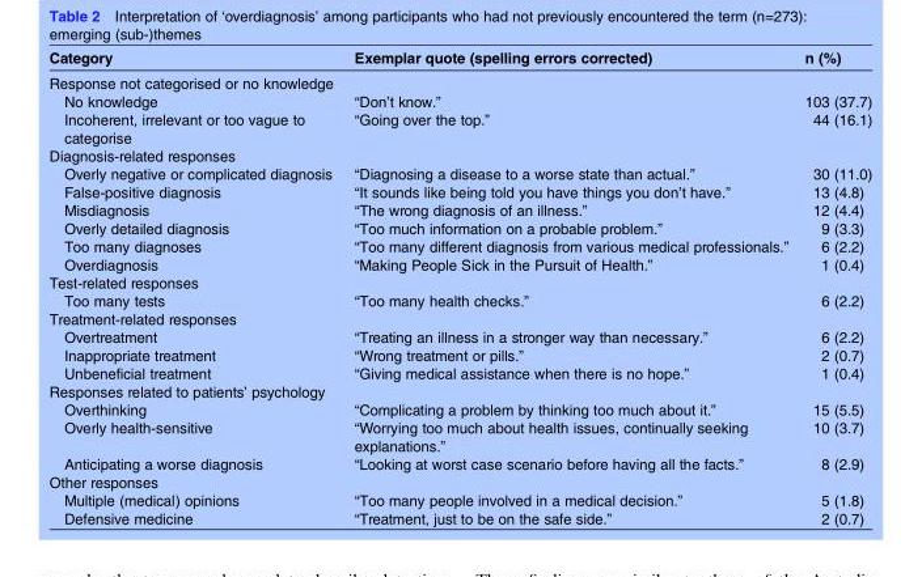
<table><thead><tr><td>Category</td><td>Exemplar quote (spelling errors corrected)</td><td>n (%)</td></tr></thead><tbody><tr><td colspan="3">Response not categorised or no knowledge</td></tr><tr><td>No knowledge</td><td>“Don’t know.”</td><td>103 (37.7)</td></tr><tr><td>Incoherent, irrelevant or too vague to categorise</td><td>“Going over the top.”</td><td>44 (16.1)</td></tr><tr><td colspan="3">Diagnosis-related responses</td></tr><tr><td>Overly negative or complicated diagnosis</td><td>“Diagnosing a disease to a worse state than actual.”</td><td>30 (11.0)</td></tr><tr><td>False-positive diagnosis</td><td>“It sounds like being told you have things you don’t have.”</td><td>13 (4.8)</td></tr><tr><td>Misdiagnosis</td><td>“The wrong diagnosis of an illness.”</td><td>12 (4.4)</td></tr><tr><td>Overly detailed diagnosis</td><td>“Too much information on a probable problem.”</td><td>9 (3.3)</td></tr><tr><td>Too many diagnoses</td><td>“Too many different diagnosis from various medical professionals.”</td><td>6 (2.2)</td></tr><tr><td>Overdiagnosis</td><td>“Making People Sick in the Pursuit of Health.”</td><td>1 (0.4)</td></tr><tr><td colspan="3">Test-related responses</td></tr><tr><td>Too many tests</td><td>“Too many health checks.”</td><td>6 (2.2)</td></tr><tr><td colspan="3">Treatment-related responses</td></tr><tr><td>Overtreatment</td><td>“Treating an illness in a stronger way than necessary.”</td><td>6 (2.2)</td></tr><tr><td>Inappropriate treatment</td><td>“Wrong treatment or pills.”</td><td>2 (0.7)</td></tr><tr><td>Unbeneficial treatment</td><td>“Giving medical assistance when there is no hope.”</td><td>1 (0.4)</td></tr><tr><td colspan="3">Responses related to patients’ psychology</td></tr><tr><td>Overthinking</td><td>“Complicating a problem by thinking too much about it.”</td><td>15 (5.5)</td></tr><tr><td>Overly health-sensitive</td><td>“Worrying too much about health issues, continually seeking explanations.”</td><td>10 (3.7)</td></tr><tr><td>Anticipating a worse diagnosis</td><td>“Looking at worst case scenario before having all the facts.”</td><td>8 (2.9)</td></tr><tr><td colspan="3">Other responses</td></tr><tr><td>Multiple (medical) opinions</td><td>“Too many people involved in a medical decision.”</td><td>5 (1.8)</td></tr><tr><td>Defensive medicine</td><td>“Treatment, just to be on the safe side.”</td><td>2 (0.7)</td></tr></tbody></table>